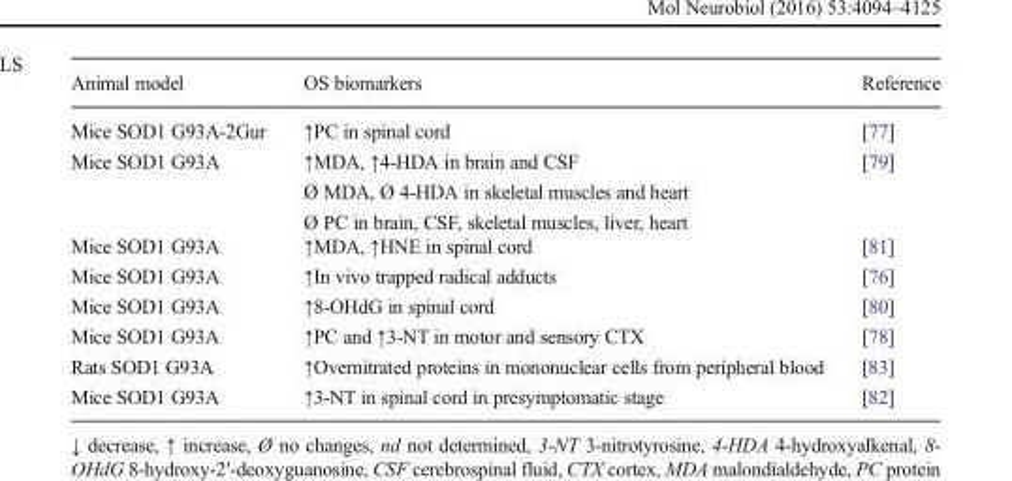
<table><thead><tr><td>Animal model</td><td>OS biomarkers</td><td>Reference</td></tr></thead><tbody><tr><td>Mice SOD1 G93A-2Gur</td><td>↑PC in spinal cord</td><td>[77]</td></tr><tr><td>Mice SOD1 G93A</td><td>↑MDA, ↑4-HDA in brain and CSF Ø MDA, Ø 4-HDA in skeletal muscles and heart Ø PC in brain, CSF, skeletal muscles, liver, heart</td><td>[79]</td></tr><tr><td>Mice SOD1 G93A</td><td>↑MDA, ↑HNE in spinal cord</td><td>[81]</td></tr><tr><td>Mice SOD1 G93A</td><td>↑In vivo trapped radical adducts</td><td>[76]</td></tr><tr><td>Mice SOD1 G93A</td><td>↑8-OHdG in spinal cord</td><td>[80]</td></tr><tr><td>Mice SOD1 G93A</td><td>↑PC and ↑3-NT in motor and sensory CTX</td><td>[78]</td></tr><tr><td>Rats SOD1 G93A</td><td>↑Overnitrated proteins in mononuclear cells from peripheral blood</td><td>[83]</td></tr><tr><td>Mice SOD1 G93A</td><td>↑3-NT in spinal cord in presymptomatic stage</td><td>[82]</td></tr></tbody></table>